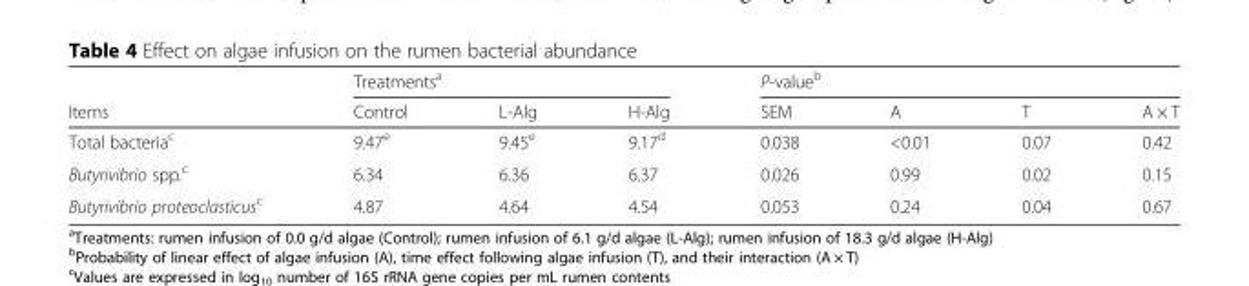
<table><thead><tr><td rowspan="2">Items</td><td colspan="3">Treatments<sup>a</sup></td><td colspan="4">P-value<sup>b</sup></td></tr><tr><td>Control</td><td>L-Alg</td><td>H-Alg</td><td>SEM</td><td>A</td><td>T</td><td>A × T</td></tr></thead><tbody><tr><td>Total bacteria<sup>c</sup></td><td>9.47<sup>e</sup></td><td>9.45<sup>e</sup></td><td>9.17<sup>d</sup></td><td>0.038</td><td>&lt;0.01</td><td>0.07</td><td>0.42</td></tr><tr><td>Butyrivibrio spp.<sup>c</sup></td><td>6.34</td><td>6.36</td><td>6.37</td><td>0.026</td><td>0.99</td><td>0.02</td><td>0.15</td></tr><tr><td>Butyrivibrio proteoclasticus<sup>c</sup></td><td>4.87</td><td>4.64</td><td>4.54</td><td>0.053</td><td>0.24</td><td>0.04</td><td>0.67</td></tr></tbody></table>